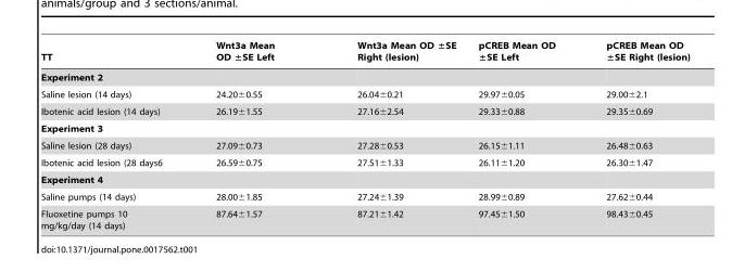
<table><thead><tr><td>TT</td><td>Wnt3a Mean OD ±SE Left</td><td>Wnt3a Mean OD ±SE Right (lesion)</td><td>pCREB Mean OD ±SE Left</td><td>pCREB Mean OD ±SE Right (lesion)</td></tr></thead><tbody><tr><td colspan="5">Experiment 2</td></tr><tr><td>Saline lesion (14 days)</td><td>24.20±0.55</td><td>26.04±0.21</td><td>29.97±0.05</td><td>29.00±2.1</td></tr><tr><td>Ibotenic acid lesion (14 days)</td><td>26.19±1.55</td><td>27.16±2.54</td><td>29.33±0.88</td><td>29.35±0.69</td></tr><tr><td colspan="5">Experiment 3</td></tr><tr><td>Saline lesion (28 days)</td><td>27.09±0.73</td><td>27.28±0.53</td><td>26.15±1.11</td><td>26.48±0.63</td></tr><tr><td>Ibotenic acid lesion (28 days6</td><td>26.59±0.75</td><td>27.51±1.33</td><td>26.11±1.20</td><td>26.30±1.47</td></tr><tr><td colspan="5">Experiment 4</td></tr><tr><td>Saline pumps (14 days)</td><td>28.00±1.85</td><td>27.24±1.39</td><td>28.99±0.89</td><td>27.62±0.44</td></tr><tr><td>Fluoxetine pumps 10 mg/kg/day (14 days)</td><td>87.64±1.57</td><td>87.21±1.42</td><td>97.45±1.50</td><td>98.43±0.45</td></tr></tbody></table>